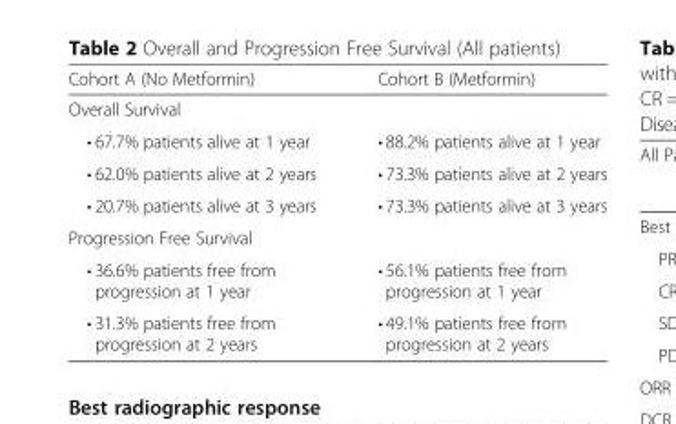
<table><thead><tr><td>Cohort A (No Metformin)</td><td>Cohort B (Metformin)</td></tr></thead><tbody><tr><td colspan="2">Overall Survival</td></tr><tr><td>• 67.7% patients alive at 1 year</td><td>• 88.2% patients alive at 1 year</td></tr><tr><td>• 62.0% patients alive at 2 years</td><td>• 73.3% patients alive at 2 years</td></tr><tr><td>• 20.7% patients alive at 3 years</td><td>• 73.3% patients alive at 3 years</td></tr><tr><td colspan="2">Progression Free Survival</td></tr><tr><td>• 36.6% patients free from progression at 1 year</td><td>• 56.1% patients free from progression at 1 year</td></tr><tr><td>• 31.3% patients free from progression at 2 years</td><td>• 49.1% patients free from progression at 2 years</td></tr></tbody></table>